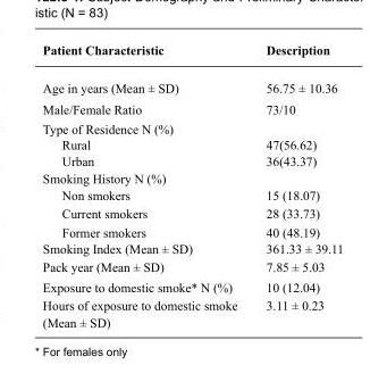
<table><thead><tr><td>Patient Characteristic</td><td>Description</td></tr></thead><tbody><tr><td>Age in years (Mean ± SD)</td><td>56.75 ± 10.36</td></tr><tr><td>Male/Female Ratio</td><td>73/10</td></tr><tr><td colspan="2">Type of Residence N (%)</td></tr><tr><td>Rural</td><td>47(56.62)</td></tr><tr><td>Urban</td><td>36(43.37)</td></tr><tr><td colspan="2">Smoking History N (%)</td></tr><tr><td>Non smokers</td><td>15 (18.07)</td></tr><tr><td>Current smokers</td><td>28 (33.73)</td></tr><tr><td>Former smokers</td><td>40 (48.19)</td></tr><tr><td>Smoking Index (Mean ± SD)</td><td>361.33 ± 39.11</td></tr><tr><td>Pack year (Mean ± SD)</td><td>7.85 ± 5.03</td></tr><tr><td>Exposure to domestic smoke* N (%)</td><td>10 (12.04)</td></tr><tr><td>Hours of exposure to domestic smoke (Mean ± SD)</td><td>3.11 ± 0.23</td></tr></tbody></table>